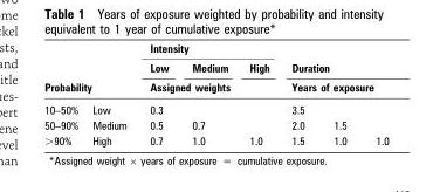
<table><thead><tr><td rowspan="3" colspan="2">Probability</td><td colspan="3">Intensity</td><td rowspan="3" colspan="3">Duration Years of exposure</td></tr><tr><td>Low</td><td>Medium</td><td>High</td></tr><tr><td colspan="3">Assigned weights</td></tr><tr><td>10–50%</td><td>Low</td><td>0.3</td><td></td><td></td><td>3.5</td><td></td><td></td></tr></thead><tbody><tr><td>50–90%</td><td>Medium</td><td>0.5</td><td>0.7</td><td></td><td>2.0</td><td>1.5</td><td></td></tr><tr><td>&gt;90%</td><td>High</td><td>0.7</td><td>1.0</td><td>1.0</td><td>1.5</td><td>1.0</td><td>1.0</td></tr></tbody></table>